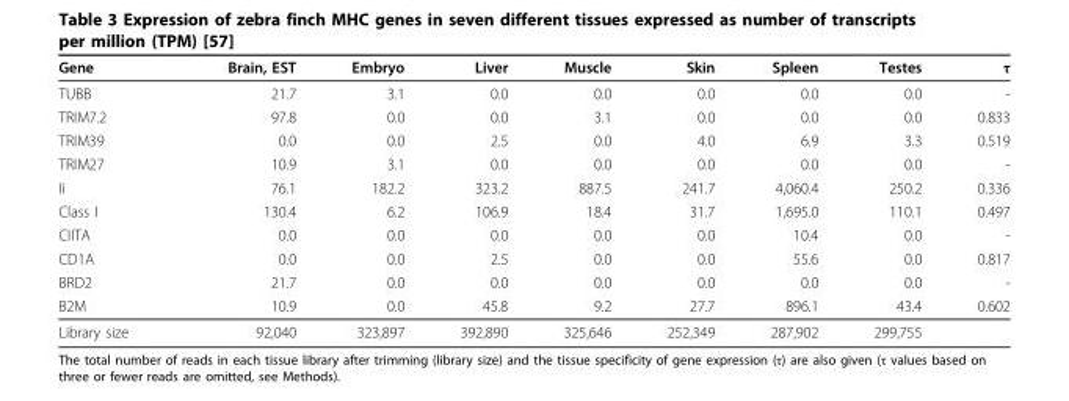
<table><thead><tr><td>Gene</td><td>Brain, EST</td><td>Embryo</td><td>Liver</td><td>Muscle</td><td>Skin</td><td>Spleen</td><td>Testes</td><td>τ</td></tr></thead><tbody><tr><td>TUBB</td><td>21.7</td><td>3.1</td><td>0.0</td><td>0.0</td><td>0.0</td><td>0.0</td><td>0.0</td><td>-</td></tr><tr><td>TRIM7.2</td><td>97.8</td><td>0.0</td><td>0.0</td><td>3.1</td><td>0.0</td><td>0.0</td><td>0.0</td><td>0.833</td></tr><tr><td>TRIM39</td><td>0.0</td><td>0.0</td><td>2.5</td><td>0.0</td><td>4.0</td><td>6.9</td><td>3.3</td><td>0.519</td></tr><tr><td>TRIM27</td><td>10.9</td><td>3.1</td><td>0.0</td><td>0.0</td><td>0.0</td><td>0.0</td><td>0.0</td><td>-</td></tr><tr><td>Ii</td><td>76.1</td><td>182.2</td><td>323.2</td><td>887.5</td><td>241.7</td><td>4,060.4</td><td>250.2</td><td>0.336</td></tr><tr><td>Class I</td><td>130.4</td><td>6.2</td><td>106.9</td><td>18.4</td><td>31.7</td><td>1,695.0</td><td>110.1</td><td>0.497</td></tr><tr><td>CIITA</td><td>0.0</td><td>0.0</td><td>0.0</td><td>0.0</td><td>0.0</td><td>10.4</td><td>0.0</td><td>-</td></tr><tr><td>CD1A</td><td>0.0</td><td>0.0</td><td>2.5</td><td>0.0</td><td>0.0</td><td>55.6</td><td>0.0</td><td>0.817</td></tr><tr><td>BRD2</td><td>21.7</td><td>0.0</td><td>0.0</td><td>0.0</td><td>0.0</td><td>0.0</td><td>0.0</td><td>-</td></tr><tr><td>B2M</td><td>10.9</td><td>0.0</td><td>45.8</td><td>9.2</td><td>27.7</td><td>896.1</td><td>43.4</td><td>0.602</td></tr><tr><td>Library size</td><td>92,040</td><td>323,897</td><td>392,890</td><td>325,646</td><td>252,349</td><td>287,902</td><td>299,755</td><td></td></tr></tbody></table>